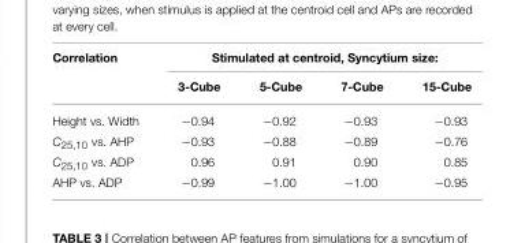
<table><thead><tr><td rowspan="2">Correlation</td><td colspan="4">Stimulated at centroid, Syncytium size:</td></tr><tr><td>3-Cube</td><td>5-Cube</td><td>7-Cube</td><td>15-Cube</td></tr></thead><tbody><tr><td>Height vs. Width</td><td>−0.94</td><td>−0.92</td><td>−0.93</td><td>−0.93</td></tr><tr><td>C<sub>25,10</sub> vs. AHP</td><td>−0.93</td><td>−0.88</td><td>−0.89</td><td>−0.76</td></tr><tr><td>C<sub>25,10</sub> vs. ADP</td><td>0.96</td><td>0.91</td><td>0.90</td><td>0.85</td></tr><tr><td>AHP vs. ADP</td><td>−0.99</td><td>−1.00</td><td>−1.00</td><td>−0.95</td></tr></tbody></table>